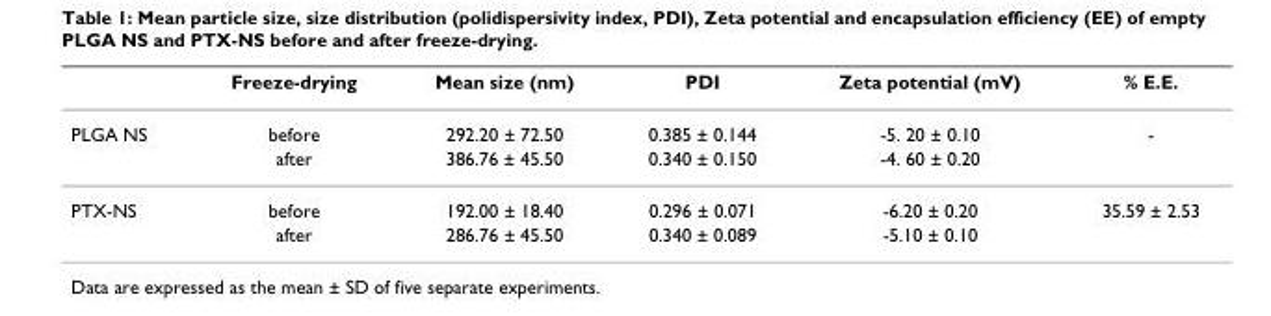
<table><thead><tr><td></td><td>Freeze-drying</td><td>Mean size (nm)</td><td>PDI</td><td>Zeta potential (mV)</td><td>% E.E.</td></tr></thead><tbody><tr><td rowspan="2">PLGA NS</td><td>before</td><td>292.20 ± 72.50</td><td>0.385 ± 0.144</td><td>-5. 20 ± 0.10</td><td>-</td></tr><tr><td>after</td><td>386.76 ± 45.50</td><td>0.340 ± 0.150</td><td>-4. 60 ± 0.20</td><td></td></tr><tr><td rowspan="2">PTX-NS</td><td>before</td><td>192.00 ± 18.40</td><td>0.296 ± 0.071</td><td>-6.20 ± 0.20</td><td>35.59 ± 2.53</td></tr><tr><td>after</td><td>286.76 ± 45.50</td><td>0.340 ± 0.089</td><td>-5.10 ± 0.10</td><td></td></tr></tbody></table>